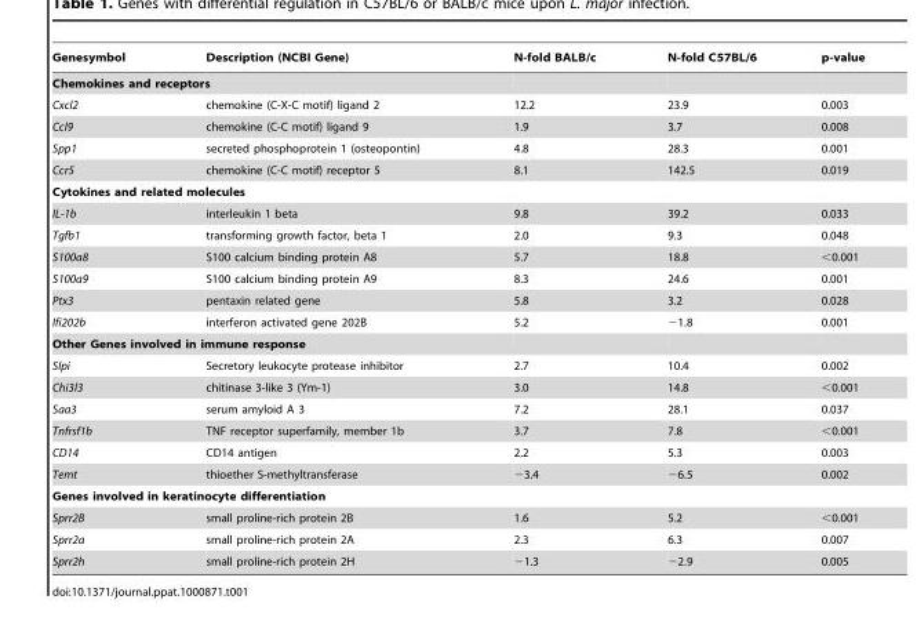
<table><thead><tr><td>Genesymbol</td><td>Description (NCBI Gene)</td><td>N-fold BALB/c</td><td>N-fold C57BL/6</td><td>p-value</td></tr></thead><tbody><tr><td colspan="5">Chemokines and receptors</td></tr><tr><td>Cxcl2</td><td>chemokine (C-X-C motif) ligand 2</td><td>12.2</td><td>23.9</td><td>0.003</td></tr><tr><td>Ccl9</td><td>chemokine (C-C motif) ligand 9</td><td>1.9</td><td>3.7</td><td>0.008</td></tr><tr><td>Spp1</td><td>secreted phosphoprotein 1 (osteopontin)</td><td>4.8</td><td>28.3</td><td>0.001</td></tr><tr><td>Ccr5</td><td>chemokine (C-C motif) receptor 5</td><td>8.1</td><td>142.5</td><td>0.019</td></tr><tr><td colspan="5">Cytokines and related molecules</td></tr><tr><td>IL-1b</td><td>interleukin 1 beta</td><td>9.8</td><td>39.2</td><td>0.033</td></tr><tr><td>Tgfb1</td><td>transforming growth factor, beta 1</td><td>2.0</td><td>9.3</td><td>0.048</td></tr><tr><td>S100a8</td><td>S100 calcium binding protein A8</td><td>5.7</td><td>18.8</td><td>&lt;0.001</td></tr><tr><td>S100a9</td><td>S100 calcium binding protein A9</td><td>8.3</td><td>24.6</td><td>0.001</td></tr><tr><td>Ptx3</td><td>pentaxin related gene</td><td>5.8</td><td>3.2</td><td>0.028</td></tr><tr><td>Ifi202b</td><td>interferon activated gene 202B</td><td>5.2</td><td>−1.8</td><td>0.001</td></tr><tr><td colspan="5">Other Genes involved in immune response</td></tr><tr><td>Slpi</td><td>Secretory leukocyte protease inhibitor</td><td>2.7</td><td>10.4</td><td>0.002</td></tr><tr><td>Chi3l3</td><td>chitinase 3-like 3 (Ym-1)</td><td>3.0</td><td>14.8</td><td>&lt;0.001</td></tr><tr><td>Saa3</td><td>serum amyloid A 3</td><td>7.2</td><td>28.1</td><td>0.037</td></tr><tr><td>Tnfrsf1b</td><td>TNF receptor superfamily, member 1b</td><td>3.7</td><td>7.8</td><td>&lt;0.001</td></tr><tr><td>CD14</td><td>CD14 antigen</td><td>2.2</td><td>5.3</td><td>0.003</td></tr><tr><td>Temt</td><td>thioether S-methyltransferase</td><td>−3.4</td><td>−6.5</td><td>0.002</td></tr><tr><td colspan="5">Genes involved in keratinocyte differentiation</td></tr><tr><td>Sprr2B</td><td>small proline-rich protein 2B</td><td>1.6</td><td>5.2</td><td>&lt;0.001</td></tr><tr><td>Sprr2a</td><td>small proline-rich protein 2A</td><td>2.3</td><td>6.3</td><td>0.007</td></tr><tr><td>Sprr2h</td><td>small proline-rich protein 2H</td><td>−1.3</td><td>−2.9</td><td>0.005</td></tr></tbody></table>